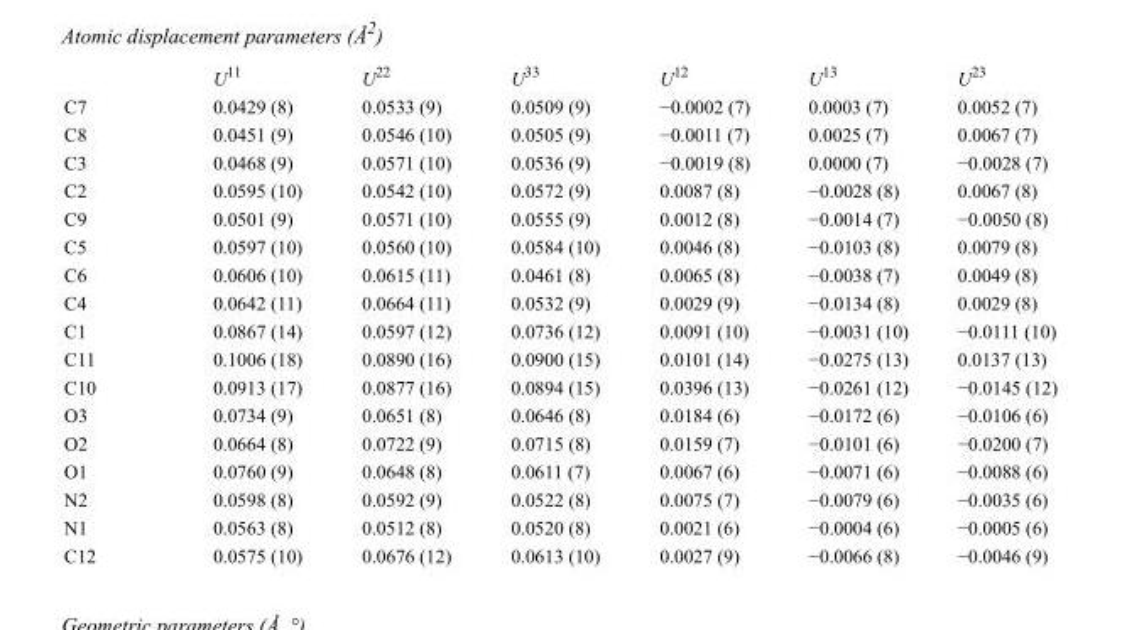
<table><thead><tr><td></td><td>U<sup>11</sup></td><td>U<sup>22</sup></td><td>U<sup>33</sup></td><td>U<sup>12</sup></td><td>U<sup>13</sup></td><td>U<sup>23</sup></td></tr></thead><tbody><tr><td>C7</td><td>0.0429 (8)</td><td>0.0533 (9)</td><td>0.0509 (9)</td><td>−0.0002 (7)</td><td>0.0003 (7)</td><td>0.0052 (7)</td></tr><tr><td>C8</td><td>0.0451 (9)</td><td>0.0546 (10)</td><td>0.0505 (9)</td><td>−0.0011 (7)</td><td>0.0025 (7)</td><td>0.0067 (7)</td></tr><tr><td>C3</td><td>0.0468 (9)</td><td>0.0571 (10)</td><td>0.0536 (9)</td><td>−0.0019 (8)</td><td>0.0000 (7)</td><td>−0.0028 (7)</td></tr><tr><td>C2</td><td>0.0595 (10)</td><td>0.0542 (10)</td><td>0.0572 (9)</td><td>0.0087 (8)</td><td>−0.0028 (8)</td><td>0.0067 (8)</td></tr><tr><td>C9</td><td>0.0501 (9)</td><td>0.0571 (10)</td><td>0.0555 (9)</td><td>0.0012 (8)</td><td>−0.0014 (7)</td><td>−0.0050 (8)</td></tr><tr><td>C5</td><td>0.0597 (10)</td><td>0.0560 (10)</td><td>0.0584 (10)</td><td>0.0046 (8)</td><td>−0.0103 (8)</td><td>0.0079 (8)</td></tr><tr><td>C6</td><td>0.0606 (10)</td><td>0.0615 (11)</td><td>0.0461 (8)</td><td>0.0065 (8)</td><td>−0.0038 (7)</td><td>0.0049 (8)</td></tr><tr><td>C4</td><td>0.0642 (11)</td><td>0.0664 (11)</td><td>0.0532 (9)</td><td>0.0029 (9)</td><td>−0.0134 (8)</td><td>0.0029 (8)</td></tr><tr><td>C1</td><td>0.0867 (14)</td><td>0.0597 (12)</td><td>0.0736 (12)</td><td>0.0091 (10)</td><td>−0.0031 (10)</td><td>−0.0111 (10)</td></tr><tr><td>C11</td><td>0.1006 (18)</td><td>0.0890 (16)</td><td>0.0900 (15)</td><td>0.0101 (14)</td><td>−0.0275 (13)</td><td>0.0137 (13)</td></tr><tr><td>C10</td><td>0.0913 (17)</td><td>0.0877 (16)</td><td>0.0894 (15)</td><td>0.0396 (13)</td><td>−0.0261 (12)</td><td>−0.0145 (12)</td></tr><tr><td>O3</td><td>0.0734 (9)</td><td>0.0651 (8)</td><td>0.0646 (8)</td><td>0.0184 (6)</td><td>−0.0172 (6)</td><td>−0.0106 (6)</td></tr><tr><td>O2</td><td>0.0664 (8)</td><td>0.0722 (9)</td><td>0.0715 (8)</td><td>0.0159 (7)</td><td>−0.0101 (6)</td><td>−0.0200 (7)</td></tr><tr><td>O1</td><td>0.0760 (9)</td><td>0.0648 (8)</td><td>0.0611 (7)</td><td>0.0067 (6)</td><td>−0.0071 (6)</td><td>−0.0088 (6)</td></tr><tr><td>N2</td><td>0.0598 (8)</td><td>0.0592 (9)</td><td>0.0522 (8)</td><td>0.0075 (7)</td><td>−0.0079 (6)</td><td>−0.0035 (6)</td></tr><tr><td>N1</td><td>0.0563 (8)</td><td>0.0512 (8)</td><td>0.0520 (8)</td><td>0.0021 (6)</td><td>−0.0004 (6)</td><td>−0.0005 (6)</td></tr><tr><td>C12</td><td>0.0575 (10)</td><td>0.0676 (12)</td><td>0.0613 (10)</td><td>0.0027 (9)</td><td>−0.0066 (8)</td><td>−0.0046 (9)</td></tr></tbody></table>